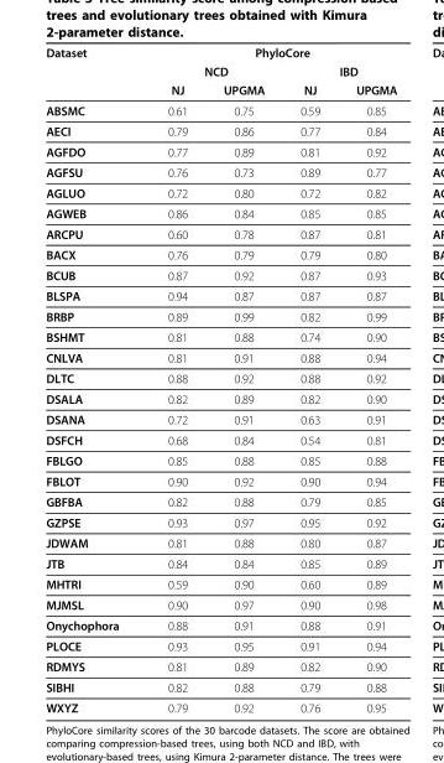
<table><thead><tr><td rowspan="3">Dataset</td><td colspan="4">PhyloCore</td></tr><tr><td colspan="2">NCD</td><td colspan="2">IBD</td></tr><tr><td>NJ</td><td>UPGMA</td><td>NJ</td><td>UPGMA</td></tr></thead><tbody><tr><td>ABSMC</td><td>0.61</td><td>0.75</td><td>0.59</td><td>0.85</td></tr><tr><td>AECI</td><td>0.79</td><td>0.86</td><td>0.77</td><td>0.84</td></tr><tr><td>AGFDO</td><td>0.77</td><td>0.89</td><td>0.81</td><td>0.92</td></tr><tr><td>AGFSU</td><td>0.76</td><td>0.73</td><td>0.89</td><td>0.77</td></tr><tr><td>AGLUO</td><td>0.72</td><td>0.80</td><td>0.72</td><td>0.82</td></tr><tr><td>AGWEB</td><td>0.86</td><td>0.84</td><td>0.85</td><td>0.85</td></tr><tr><td>ARCPU</td><td>0.60</td><td>0.78</td><td>0.87</td><td>0.81</td></tr><tr><td>BACX</td><td>0.76</td><td>0.79</td><td>0.79</td><td>0.80</td></tr><tr><td>BCUB</td><td>0.87</td><td>0.92</td><td>0.87</td><td>0.93</td></tr><tr><td>BLSPA</td><td>0.94</td><td>0.87</td><td>0.87</td><td>0.87</td></tr><tr><td>BRBP</td><td>0.89</td><td>0.99</td><td>0.82</td><td>0.99</td></tr><tr><td>BSHMT</td><td>0.81</td><td>0.88</td><td>0.74</td><td>0.90</td></tr><tr><td>CNLVA</td><td>0.81</td><td>0.91</td><td>0.88</td><td>0.94</td></tr><tr><td>DLTC</td><td>0.88</td><td>0.92</td><td>0.88</td><td>0.92</td></tr><tr><td>DSALA</td><td>0.82</td><td>0.89</td><td>0.82</td><td>0.90</td></tr><tr><td>DSANA</td><td>0.72</td><td>0.91</td><td>0.63</td><td>0.91</td></tr><tr><td>DSFCH</td><td>0.68</td><td>0.84</td><td>0.54</td><td>0.81</td></tr><tr><td>FBLGO</td><td>0.85</td><td>0.88</td><td>0.85</td><td>0.88</td></tr><tr><td>FBLOT</td><td>0.90</td><td>0.92</td><td>0.90</td><td>0.94</td></tr><tr><td>GBFBA</td><td>0.82</td><td>0.88</td><td>0.79</td><td>0.85</td></tr><tr><td>GZPSE</td><td>0.93</td><td>0.97</td><td>0.95</td><td>0.92</td></tr><tr><td>JDWAM</td><td>0.81</td><td>0.88</td><td>0.80</td><td>0.87</td></tr><tr><td>JTB</td><td>0.84</td><td>0.84</td><td>0.85</td><td>0.89</td></tr><tr><td>MHTRI</td><td>0.59</td><td>0.90</td><td>0.60</td><td>0.89</td></tr><tr><td>MJMSL</td><td>0.90</td><td>0.97</td><td>0.90</td><td>0.98</td></tr><tr><td>Onychophora</td><td>0.88</td><td>0.91</td><td>0.88</td><td>0.91</td></tr><tr><td>PLOCE</td><td>0.93</td><td>0.95</td><td>0.91</td><td>0.94</td></tr><tr><td>RDMYS</td><td>0.81</td><td>0.89</td><td>0.82</td><td>0.90</td></tr><tr><td>SIBHI</td><td>0.82</td><td>0.88</td><td>0.79</td><td>0.88</td></tr><tr><td>WXYZ</td><td>0.79</td><td>0.92</td><td>0.76</td><td>0.95</td></tr></tbody></table>